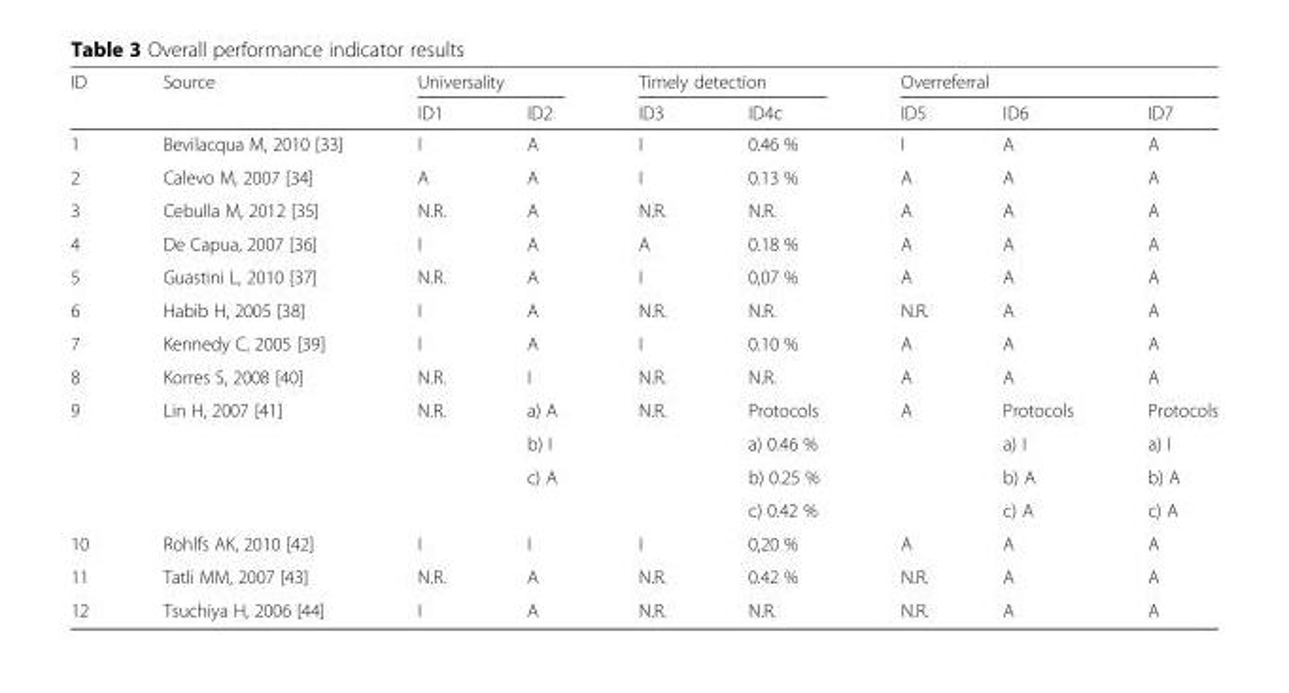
<table><thead><tr><td rowspan="2">ID</td><td rowspan="2">Source</td><td colspan="2">Universality</td><td colspan="2">Timely detection</td><td colspan="3">Overreferral</td></tr><tr><td>ID1</td><td>ID2</td><td>ID3</td><td>ID4c</td><td>ID5</td><td>ID6</td><td>ID7</td></tr></thead><tbody><tr><td>1</td><td>Bevilacqua M, 2010 [33]</td><td>I</td><td>A</td><td>I</td><td>0.46 %</td><td>I</td><td>A</td><td>A</td></tr><tr><td>2</td><td>Calevo M, 2007 [34]</td><td>A</td><td>A</td><td>I</td><td>0.13 %</td><td>A</td><td>A</td><td>A</td></tr><tr><td>3</td><td>Cebulla M, 2012 [35]</td><td>N.R.</td><td>A</td><td>N.R.</td><td>N.R.</td><td>A</td><td>A</td><td>A</td></tr><tr><td>4</td><td>De Capua, 2007 [36]</td><td>I</td><td>A</td><td>A</td><td>0.18 %</td><td>A</td><td>A</td><td>A</td></tr><tr><td>5</td><td>Guastini L, 2010 [37]</td><td>N.R.</td><td>A</td><td>I</td><td>0,07 %</td><td>A</td><td>A</td><td>A</td></tr><tr><td>6</td><td>Habib H, 2005 [38]</td><td>I</td><td>A</td><td>N.R.</td><td>N.R.</td><td>N.R.</td><td>A</td><td>A</td></tr><tr><td>7</td><td>Kennedy C, 2005 [39]</td><td>I</td><td>A</td><td>I</td><td>0.10 %</td><td>A</td><td>A</td><td>A</td></tr><tr><td>8</td><td>Korres S, 2008 [40]</td><td>N.R.</td><td>I</td><td>N.R.</td><td>N.R.</td><td>A</td><td>A</td><td>A</td></tr><tr><td rowspan="4">9</td><td rowspan="4">Lin H, 2007 [41]</td><td rowspan="4">N.R.</td><td>a) A</td><td rowspan="4">N.R.</td><td>Protocols</td><td rowspan="4">A</td><td>Protocols</td><td>Protocols</td></tr><tr><td>b) I</td><td>a) 0.46 %</td><td>a) I</td><td>a) I</td></tr><tr><td rowspan="2">c) A</td><td>b) 0.25 %</td><td>b) A</td><td>b) A</td></tr><tr><td>c) 0.42 %</td><td>c) A</td><td>c) A</td></tr><tr><td>10</td><td>Rohlfs AK, 2010 [42]</td><td>I</td><td>I</td><td>I</td><td>0,20 %</td><td>A</td><td>A</td><td>A</td></tr><tr><td>11</td><td>Tatli MM, 2007 [43]</td><td>N.R.</td><td>A</td><td>N.R.</td><td>0.42 %</td><td>N.R.</td><td>A</td><td>A</td></tr><tr><td>12</td><td>Tsuchiya H, 2006 [44]</td><td>I</td><td>A</td><td>N.R.</td><td>N.R.</td><td>N.R.</td><td>A</td><td>A</td></tr></tbody></table>